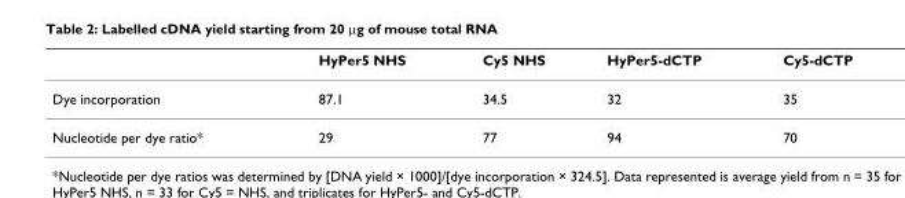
<table><thead><tr><td></td><td>HyPer5 NHS</td><td>Cy5 NHS</td><td>HyPer5-dCTP</td><td>Cy5-dCTP</td></tr></thead><tbody><tr><td>Dye incorporation</td><td>87.1</td><td>34.5</td><td>32</td><td>35</td></tr><tr><td>Nucleotide per dye ratio*</td><td>29</td><td>77</td><td>94</td><td>70</td></tr></tbody></table>